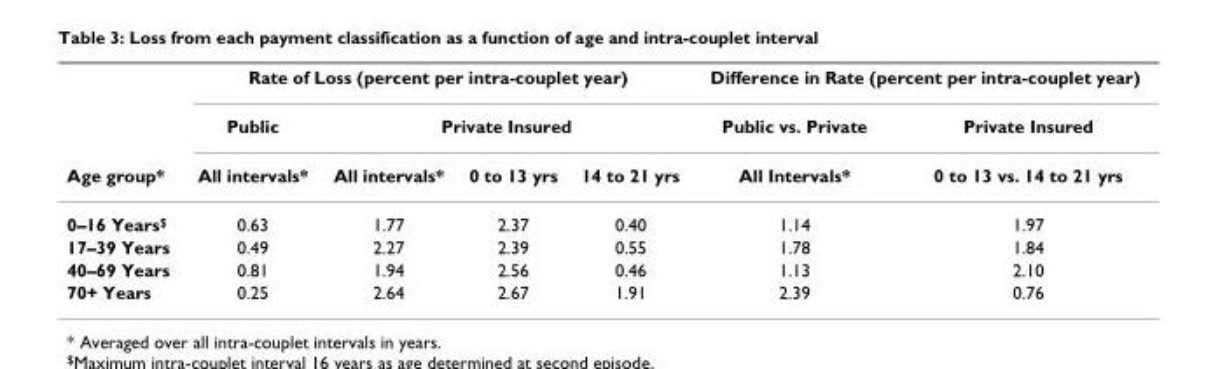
<table><thead><tr><td rowspan="3">Age group*</td><td colspan="4">Rate of Loss (percent per intra-couplet year)</td><td colspan="2">Difference in Rate (percent per intra-couplet year)</td></tr><tr><td rowspan="2">Public All intervals*</td><td colspan="3">Private Insured</td><td rowspan="2">Public vs. Private All Intervals*</td><td rowspan="2">Private Insured 0 to 13 vs. 14 to 21 yrs</td></tr><tr><td>All intervals*</td><td>0 to 13 yrs</td><td>14 to 21 yrs</td></tr></thead><tbody><tr><td>0–16 Years<sup>$</sup></td><td>0.63</td><td>1.77</td><td>2.37</td><td>0.40</td><td>1.14</td><td>1.97</td></tr><tr><td>17–39 Years</td><td>0.49</td><td>2.27</td><td>2.39</td><td>0.55</td><td>1.78</td><td>1.84</td></tr><tr><td>40–69 Years</td><td>0.81</td><td>1.94</td><td>2.56</td><td>0.46</td><td>1.13</td><td>2.10</td></tr><tr><td>70+ Years</td><td>0.25</td><td>2.64</td><td>2.67</td><td>1.91</td><td>2.39</td><td>0.76</td></tr></tbody></table>